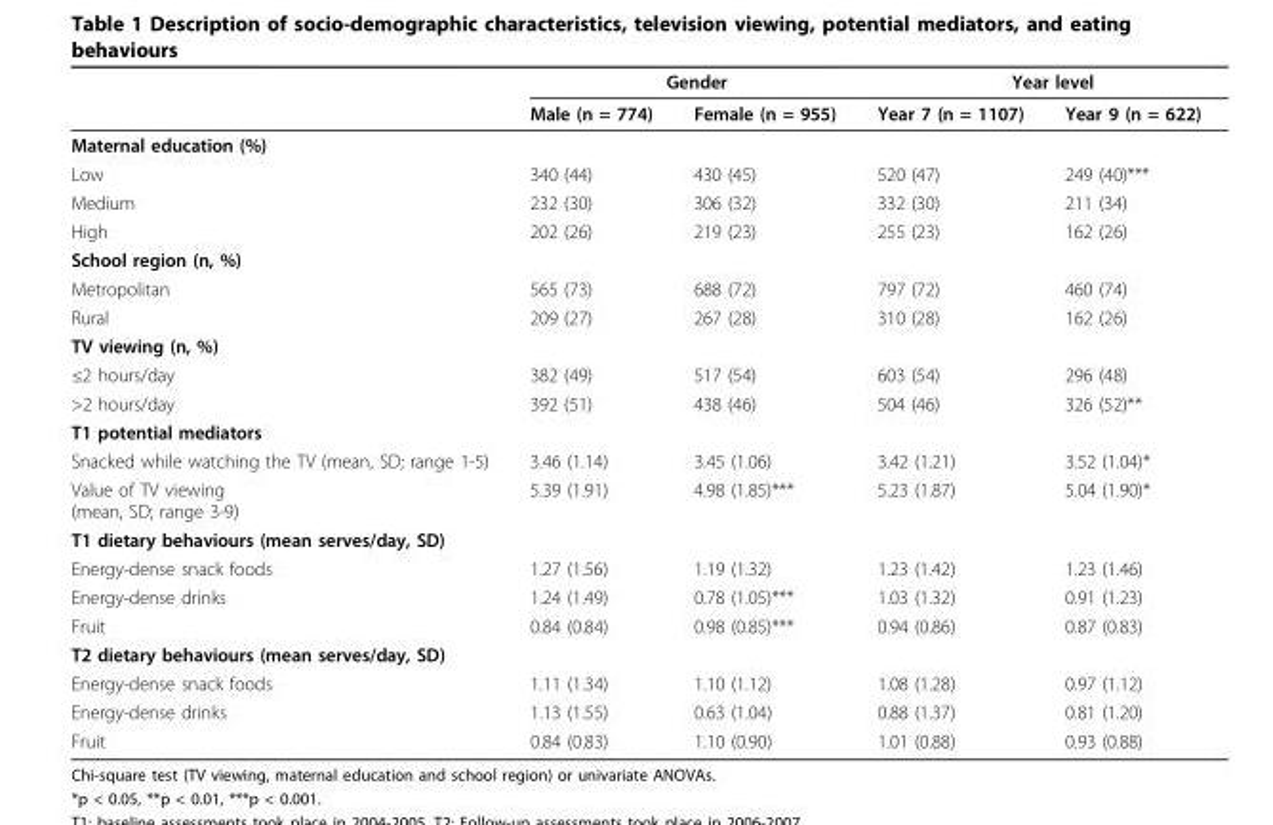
<table><thead><tr><td rowspan="2"></td><td colspan="2">Gender</td><td colspan="2">Year level</td></tr><tr><td>Male (n = 774)</td><td>Female (n = 955)</td><td>Year 7 (n = 1107)</td><td>Year 9 (n = 622)</td></tr></thead><tbody><tr><td colspan="5">Maternal education (%)</td></tr><tr><td>Low</td><td>340 (44)</td><td>430 (45)</td><td>520 (47)</td><td>249 (40)***</td></tr><tr><td>Medium</td><td>232 (30)</td><td>306 (32)</td><td>332 (30)</td><td>211 (34)</td></tr><tr><td>High</td><td>202 (26)</td><td>219 (23)</td><td>255 (23)</td><td>162 (26)</td></tr><tr><td colspan="5">School region (n, %)</td></tr><tr><td>Metropolitan</td><td>565 (73)</td><td>688 (72)</td><td>797 (72)</td><td>460 (74)</td></tr><tr><td>Rural</td><td>209 (27)</td><td>267 (28)</td><td>310 (28)</td><td>162 (26)</td></tr><tr><td colspan="5">TV viewing (n, %)</td></tr><tr><td>≤2 hours/day</td><td>382 (49)</td><td>517 (54)</td><td>603 (54)</td><td>296 (48)</td></tr><tr><td>&gt;2 hours/day</td><td>392 (51)</td><td>438 (46)</td><td>504 (46)</td><td>326 (52)**</td></tr><tr><td colspan="5">T1 potential mediators</td></tr><tr><td>Snacked while watching the TV (mean, SD; range 1-5)</td><td>3.46 (1.14)</td><td>3.45 (1.06)</td><td>3.42 (1.21)</td><td>3.52 (1.04)*</td></tr><tr><td>Value of TV viewing (mean, SD; range 3-9)</td><td>5.39 (1.91)</td><td>4.98 (1.85)***</td><td>5.23 (1.87)</td><td>5.04 (1.90)*</td></tr><tr><td colspan="5">T1 dietary behaviours (mean serves/day, SD)</td></tr><tr><td>Energy-dense snack foods</td><td>1.27 (1.56)</td><td>1.19 (1.32)</td><td>1.23 (1.42)</td><td>1.23 (1.46)</td></tr><tr><td>Energy-dense drinks</td><td>1.24 (1.49)</td><td>0.78 (1.05)***</td><td>1.03 (1.32)</td><td>0.91 (1.23)</td></tr><tr><td>Fruit</td><td>0.84 (0.84)</td><td>0.98 (0.85)***</td><td>0.94 (0.86)</td><td>0.87 (0.83)</td></tr><tr><td colspan="5">T2 dietary behaviours (mean serves/day, SD)</td></tr><tr><td>Energy-dense snack foods</td><td>1.11 (1.34)</td><td>1.10 (1.12)</td><td>1.08 (1.28)</td><td>0.97 (1.12)</td></tr><tr><td>Energy-dense drinks</td><td>1.13 (1.55)</td><td>0.63 (1.04)</td><td>0.88 (1.37)</td><td>0.81 (1.20)</td></tr><tr><td>Fruit</td><td>0.84 (0.83)</td><td>1.10 (0.90)</td><td>1.01 (0.88)</td><td>0.93 (0.88)</td></tr></tbody></table>